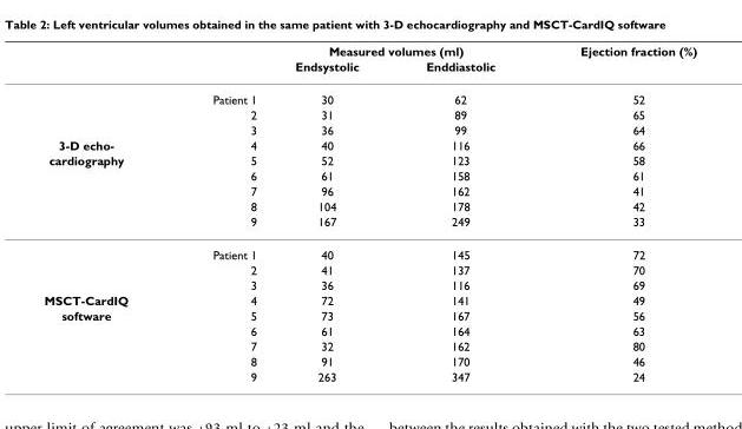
<table><thead><tr><td rowspan="2"></td><td rowspan="2"></td><td colspan="2">Measured volumes (ml)</td><td rowspan="2">Ejection fraction (%)</td></tr><tr><td>Endsystolic</td><td>Enddiastolic</td></tr></thead><tbody><tr><td></td><td>Patient 1</td><td>30</td><td>62</td><td>52</td></tr><tr><td></td><td>2</td><td>31</td><td>89</td><td>65</td></tr><tr><td></td><td>3</td><td>36</td><td>99</td><td>64</td></tr><tr><td>3-D echo-</td><td>4</td><td>40</td><td>116</td><td>66</td></tr><tr><td rowspan="8">cardiography</td><td>5</td><td>52</td><td>123</td><td>58</td></tr><tr><td>6</td><td>61</td><td>158</td><td>61</td></tr><tr><td>7</td><td>96</td><td>162</td><td>41</td></tr><tr><td>8</td><td>104</td><td>178</td><td>42</td></tr><tr><td>9</td><td>167</td><td>249</td><td>33</td></tr><tr><td>Patient 1</td><td>40</td><td>145</td><td>72</td></tr><tr><td>2</td><td>41</td><td>137</td><td>70</td></tr><tr><td>3</td><td>36</td><td>116</td><td>69</td></tr><tr><td>MSCT-CardIQ</td><td>4</td><td>72</td><td>141</td><td>49</td></tr><tr><td rowspan="5">software</td><td>5</td><td>73</td><td>167</td><td>56</td></tr><tr><td>6</td><td>61</td><td>164</td><td>63</td></tr><tr><td>7</td><td>32</td><td>162</td><td>80</td></tr><tr><td>8</td><td>91</td><td>170</td><td>46</td></tr><tr><td>9</td><td>263</td><td>347</td><td>24</td></tr></tbody></table>